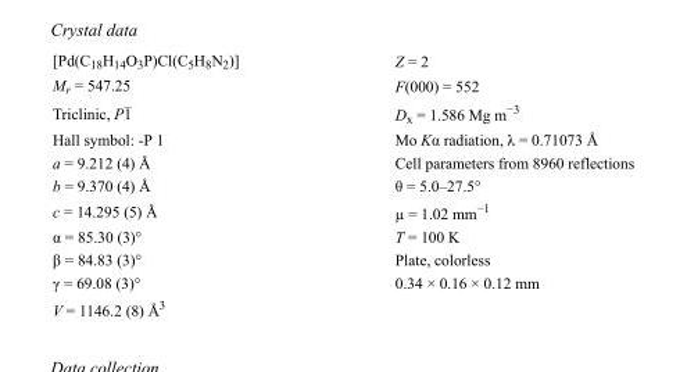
<table><tbody><tr><td>[Pd(C<sub>18</sub>H<sub>14</sub>O<sub>3</sub>P)Cl(C<sub>5</sub>H<sub>8</sub>N<sub>2</sub>)]</td><td>Z = 2</td></tr><tr><td>M<sub>r</sub> = 547.25</td><td>F(000) = 552</td></tr><tr><td>Triclinic, P1</td><td>D<sub>x</sub> = 1.586 Mg m<sup>−3</sup></td></tr><tr><td>Hall symbol: -P 1</td><td>Mo Kα radiation, λ = 0.71073 Å</td></tr><tr><td>a = 9.212 (4) Å</td><td>Cell parameters from 8960 reflections</td></tr><tr><td>b = 9.370 (4) Å</td><td>θ = 5.0–27.5°</td></tr><tr><td>c = 14.295 (5) Å</td><td>µ = 1.02 mm<sup>−1</sup></td></tr><tr><td>α = 85.30 (3)°</td><td>T = 100 K</td></tr><tr><td>β = 84.83 (3)°</td><td>Plate, colorless</td></tr><tr><td>γ = 69.08 (3)°</td><td>0.34 × 0.16 × 0.12 mm</td></tr><tr><td>V = 1146.2 (8) Å<sup>3</sup></td><td></td></tr></tbody></table>